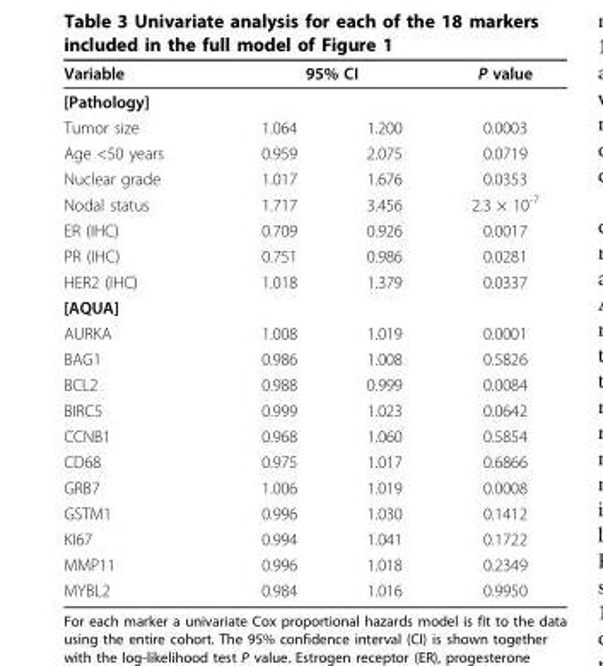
<table><thead><tr><td>Variable</td><td colspan="2">95% CI</td><td>P value</td></tr><tr><td colspan="4">[Pathology]</td></tr><tr><td>Tumor size</td><td>1.064</td><td>1.200</td><td>0.0003</td></tr></thead><tbody><tr><td>Age &lt;50 years</td><td>0.959</td><td>2.075</td><td>0.0719</td></tr><tr><td>Nuclear grade</td><td>1.017</td><td>1.676</td><td>0.0353</td></tr><tr><td>Nodal status</td><td>1.717</td><td>3.456</td><td>2.3 × 10<sup>-7</sup></td></tr><tr><td>ER (IHC)</td><td>0.709</td><td>0.926</td><td>0.0017</td></tr><tr><td>PR (IHC)</td><td>0.751</td><td>0.986</td><td>0.0281</td></tr><tr><td>HER2 (IHC)</td><td>1.018</td><td>1.379</td><td>0.0337</td></tr><tr><td colspan="4">[AQUA]</td></tr><tr><td>AURKA</td><td>1.008</td><td>1.019</td><td>0.0001</td></tr><tr><td>BAG1</td><td>0.986</td><td>1.008</td><td>0.5826</td></tr><tr><td>BCL2</td><td>0.988</td><td>0.999</td><td>0.0084</td></tr><tr><td>BIRC5</td><td>0.999</td><td>1.023</td><td>0.0642</td></tr><tr><td>CCNB1</td><td>0.968</td><td>1.060</td><td>0.5854</td></tr><tr><td>CD68</td><td>0.975</td><td>1.017</td><td>0.6866</td></tr><tr><td>GRB7</td><td>1.006</td><td>1.019</td><td>0.0008</td></tr><tr><td>GSTM1</td><td>0.996</td><td>1.030</td><td>0.1412</td></tr><tr><td>KI67</td><td>0.994</td><td>1.041</td><td>0.1722</td></tr><tr><td>MMP11</td><td>0.996</td><td>1.018</td><td>0.2349</td></tr><tr><td>MYBL2</td><td>0.984</td><td>1.016</td><td>0.9950</td></tr></tbody></table>